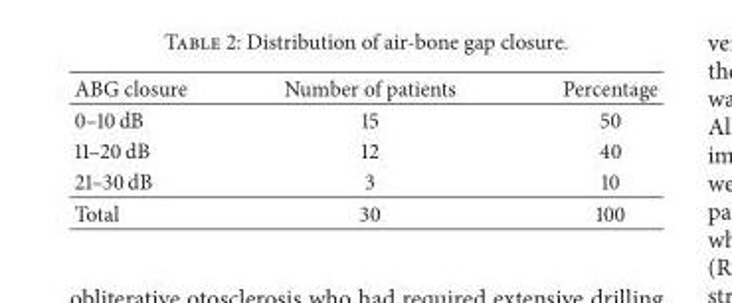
<table><thead><tr><td>ABG closure</td><td>Number of patients</td><td>Percentage</td></tr></thead><tbody><tr><td>0–10 dB</td><td>15</td><td>50</td></tr><tr><td>11–20 dB</td><td>12</td><td>40</td></tr><tr><td>21–30 dB</td><td>3</td><td>10</td></tr><tr><td>Total</td><td>30</td><td>100</td></tr></tbody></table>